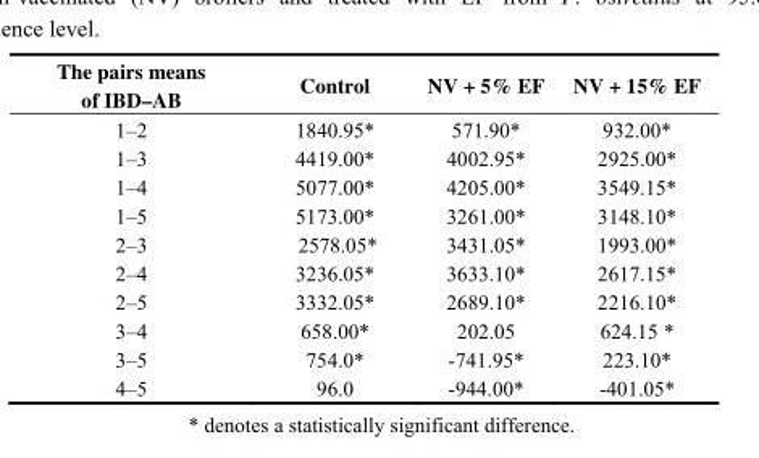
<table><thead><tr><td>The pairs means of IBD–AB</td><td>Control</td><td>NV + 5% EF</td><td>NV + 15% EF</td></tr></thead><tbody><tr><td>1–2</td><td>1840.95*</td><td>571.90*</td><td>932.00*</td></tr><tr><td>1–3</td><td>4419.00*</td><td>4002.95*</td><td>2925.00*</td></tr><tr><td>1–4</td><td>5077.00*</td><td>4205.00*</td><td>3549.15*</td></tr><tr><td>1–5</td><td>5173.00*</td><td>3261.00*</td><td>3148.10*</td></tr><tr><td>2–3</td><td>2578.05*</td><td>3431.05*</td><td>1993.00*</td></tr><tr><td>2–4</td><td>3236.05*</td><td>3633.10*</td><td>2617.15*</td></tr><tr><td>2–5</td><td>3332.05*</td><td>2689.10*</td><td>2216.10*</td></tr><tr><td>3–4</td><td>658.00*</td><td>202.05</td><td>624.15 *</td></tr><tr><td>3–5</td><td>754.0*</td><td>-741.95*</td><td>223.10*</td></tr><tr><td>4–5</td><td>96.0</td><td>-944.00*</td><td>-401.05*</td></tr></tbody></table>